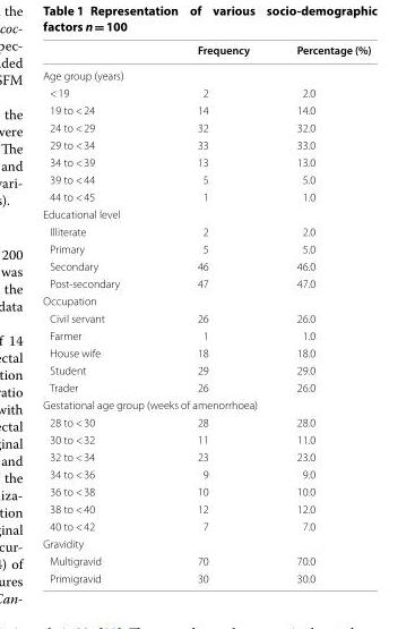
<table><thead><tr><td></td><td>Frequency</td><td>Percentage (%)</td></tr></thead><tbody><tr><td colspan="3">Age group (years)</td></tr><tr><td>&lt; 19</td><td>2</td><td>2.0</td></tr><tr><td>19 to &lt; 24</td><td>14</td><td>14.0</td></tr><tr><td>24 to &lt; 29</td><td>32</td><td>32.0</td></tr><tr><td>29 to &lt; 34</td><td>33</td><td>33.0</td></tr><tr><td>34 to &lt; 39</td><td>13</td><td>13.0</td></tr><tr><td>39 to &lt; 44</td><td>5</td><td>5.0</td></tr><tr><td>44 to &lt; 45</td><td>1</td><td>1.0</td></tr><tr><td colspan="3">Educational level</td></tr><tr><td>Illiterate</td><td>2</td><td>2.0</td></tr><tr><td>Primary</td><td>5</td><td>5.0</td></tr><tr><td>Secondary</td><td>46</td><td>46.0</td></tr><tr><td>Post-secondary</td><td>47</td><td>47.0</td></tr><tr><td colspan="3">Occupation</td></tr><tr><td>Civil servant</td><td>26</td><td>26.0</td></tr><tr><td>Farmer</td><td>1</td><td>1.0</td></tr><tr><td>House wife</td><td>18</td><td>18.0</td></tr><tr><td>Student</td><td>29</td><td>29.0</td></tr><tr><td>Trader</td><td>26</td><td>26.0</td></tr><tr><td colspan="3">Gestational age group (weeks of amenorrhoea)</td></tr><tr><td>28 to &lt; 30</td><td>28</td><td>28.0</td></tr><tr><td>30 to &lt; 32</td><td>11</td><td>11.0</td></tr><tr><td>32 to &lt; 34</td><td>23</td><td>23.0</td></tr><tr><td>34 to &lt; 36</td><td>9</td><td>9.0</td></tr><tr><td>36 to &lt; 38</td><td>10</td><td>10.0</td></tr><tr><td>38 to &lt; 40</td><td>12</td><td>12.0</td></tr><tr><td>40 to &lt; 42</td><td>7</td><td>7.0</td></tr><tr><td colspan="3">Gravidity</td></tr><tr><td>Multigravid</td><td>70</td><td>70.0</td></tr><tr><td>Primigravid</td><td>30</td><td>30.0</td></tr></tbody></table>